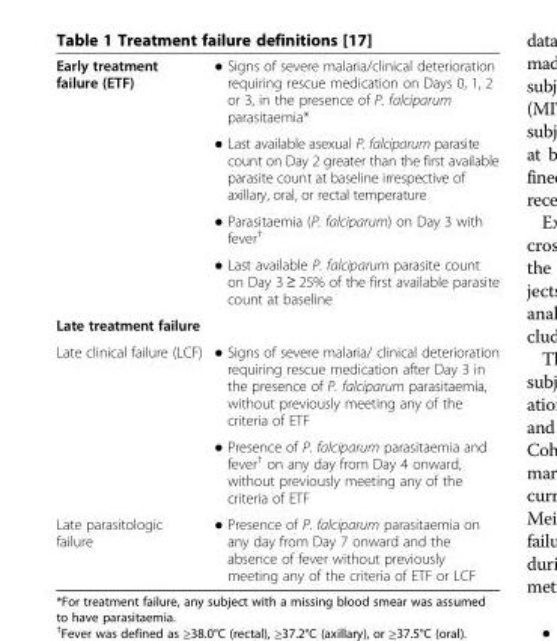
<table><tbody><tr><td rowspan="4">Early treatment failure (ETF)</td><td>● Signs of severe malaria/clinical deterioration requiring rescue medication on Days 0, 1, 2 or 3, in the presence of P. falciparum parasitaemia*</td></tr><tr><td>● Last available asexual P. falciparum parasite count on Day 2 greater than the first available parasite count at baseline irrespective of axillary, oral, or rectal temperature</td></tr><tr><td>● Parasitaemia (P. falciparum) on Day 3 with fever<sup>†</sup></td></tr><tr><td>● Last available P. falciparum parasite count on Day 3 ≥ 25% of the first available parasite count at baseline</td></tr><tr><td colspan="2">Late treatment failure</td></tr><tr><td rowspan="2">Late clinical failure (LCF)</td><td>● Signs of severe malaria/ clinical deterioration requiring rescue medication after Day 3 in the presence of P. falciparum parasitaemia, without previously meeting any of the criteria of ETF</td></tr><tr><td>● Presence of P. falciparum parasitaemia and fever<sup>†</sup> on any day from Day 4 onward, without previously meeting any of the criteria of ETF</td></tr><tr><td>Late parasitologic failure</td><td>● Presence of P. falciparum parasitaemia on any day from Day 7 onward and the absence of fever without previously meeting any of the criteria of ETF or LCF</td></tr></tbody></table>